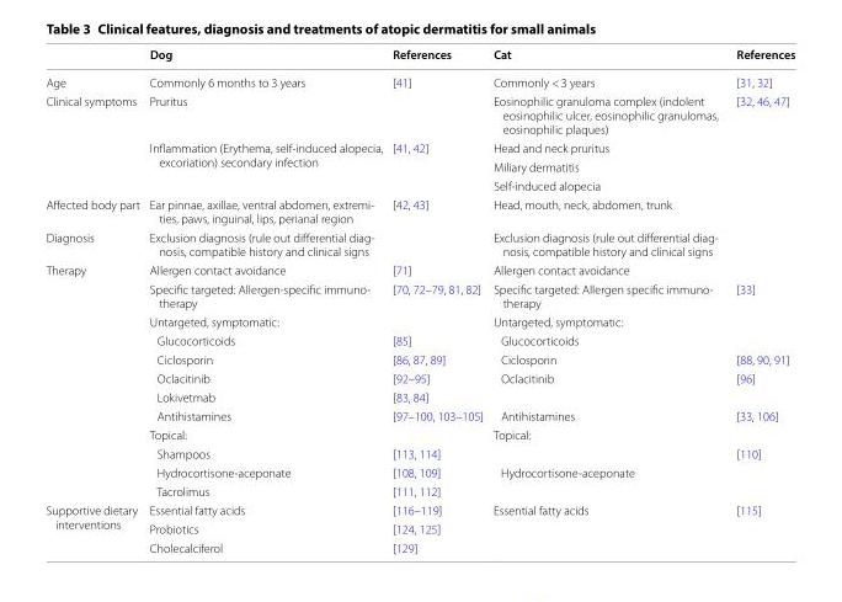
<table><thead><tr><td></td><td>Dog</td><td>References</td><td>Cat</td><td>References</td></tr></thead><tbody><tr><td>Age</td><td>Commonly 6 months to 3 years</td><td>[41]</td><td>Commonly &lt; 3 years</td><td>[31, 32]</td></tr><tr><td rowspan="4">Clinical symptoms</td><td>Pruritus</td><td></td><td>Eosinophilic granuloma complex (indolent eosinophilic ulcer, eosinophilic granulomas, eosinophilic plaques)</td><td rowspan="4">[32, 46, 47]</td></tr><tr><td rowspan="3">Inflammation (Erythema, self-induced alopecia, excoriation) secondary infection</td><td rowspan="3">[41, 42]</td><td>Head and neck pruritus</td></tr><tr><td>Miliary dermatitis</td></tr><tr><td>Self-induced alopecia</td></tr><tr><td>Affected body part</td><td>Ear pinnae, axillae, ventral abdomen, extremi- ties, paws, inguinal, lips, perianal region</td><td>[42, 43]</td><td>Head, mouth, neck, abdomen, trunk</td><td></td></tr><tr><td>Diagnosis</td><td>Exclusion diagnosis (rule out differential diag- nosis, compatible history and clinical signs</td><td></td><td>Exclusion diagnosis (rule out differential diag- nosis, compatible history and clinical signs</td><td></td></tr><tr><td rowspan="12">Therapy</td><td>Allergen contact avoidance</td><td>[71]</td><td>Allergen contact avoidance</td><td></td></tr><tr><td>Specific targeted: Allergen-specific immuno- therapy</td><td>[70, 72–79, 81, 82]</td><td>Specific targeted: Allergen specific immuno- therapy</td><td>[33]</td></tr><tr><td>Untargeted, symptomatic:</td><td></td><td>Untargeted, symptomatic:</td><td></td></tr><tr><td>Glucocorticoids</td><td>[85]</td><td>Glucocorticoids</td><td></td></tr><tr><td>Ciclosporin</td><td>[86, 87, 89]</td><td>Ciclosporin</td><td>[88, 90, 91]</td></tr><tr><td>Oclacitinib</td><td>[92–95]</td><td>Oclacitinib</td><td>[96]</td></tr><tr><td>Lokivetmab</td><td>[83, 84]</td><td></td><td></td></tr><tr><td>Antihistamines</td><td>[97–100, 103–105]</td><td>Antihistamines</td><td>[33, 106]</td></tr><tr><td>Topical:</td><td></td><td>Topical:</td><td></td></tr><tr><td>Shampoos</td><td>[113, 114]</td><td></td><td>[110]</td></tr><tr><td>Hydrocortisone-aceponate</td><td>[108, 109]</td><td>Hydrocortisone-aceponate</td><td></td></tr><tr><td>Tacrolimus</td><td>[111, 112]</td><td></td><td></td></tr><tr><td rowspan="3">Supportive dietary interventions</td><td>Essential fatty acids</td><td>[116–119]</td><td>Essential fatty acids</td><td>[115]</td></tr><tr><td>Probiotics</td><td>[124, 125]</td><td></td><td></td></tr><tr><td>Cholecalciferol</td><td>[129]</td><td></td><td></td></tr></tbody></table>